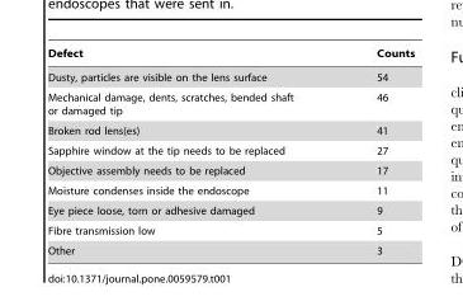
<table><thead><tr><td>Defect</td><td>Counts</td></tr></thead><tbody><tr><td>Dusty, particles are visible on the lens surface</td><td>54</td></tr><tr><td>Mechanical damage, dents, scratches, bended shaft or damaged tip</td><td>46</td></tr><tr><td>Broken rod lens(es)</td><td>41</td></tr><tr><td>Sapphire window at the tip needs to be replaced</td><td>27</td></tr><tr><td>Objective assembly needs to be replaced</td><td>17</td></tr><tr><td>Moisture condenses inside the endoscope</td><td>11</td></tr><tr><td>Eye piece loose, torn or adhesive damaged</td><td>9</td></tr><tr><td>Fibre transmission low</td><td>5</td></tr><tr><td>Other</td><td>3</td></tr></tbody></table>